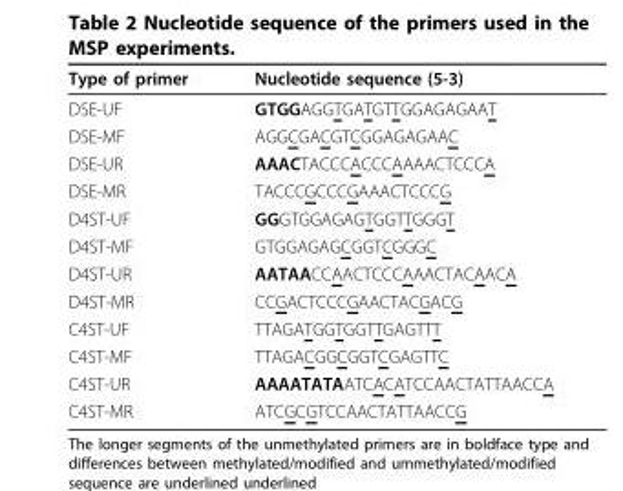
<table><thead><tr><td>Type of primer</td><td>Nucleotide sequence (5-3)</td></tr></thead><tbody><tr><td>DSE-UF</td><td>GTGGAGGTGATGTTGGAGAGAAT</td></tr><tr><td>DSE-MF</td><td>AGGCGACGTCGGAGAGAAC</td></tr><tr><td>DSE-UR</td><td>AAACTACCCACCCAAAACTCCCA</td></tr><tr><td>DSE-MR</td><td>TACCCGCCCGAAACTCCCG</td></tr><tr><td>D4ST-UF</td><td>GGGTGGAGAGTGGTTGGGT</td></tr><tr><td>D4ST-MF</td><td>GTGGAGAGCGGTCGGGC</td></tr><tr><td>D4ST-UR</td><td>AATAACCAACTCCCAAACTACAACA</td></tr><tr><td>D4ST-MR</td><td>CCGACTCCCGAACTACGACG</td></tr><tr><td>C4ST-UF</td><td>TTAGATGGTGGTTGAGTTT</td></tr><tr><td>C4ST-MF</td><td>TTAGACGGCGGTCGAGTTC</td></tr><tr><td>C4ST-UR</td><td>AAAATATAATCACATCCAACTATTAACCA</td></tr><tr><td>C4ST-MR</td><td>ATCGCGTCCAACTATTAACCG</td></tr></tbody></table>